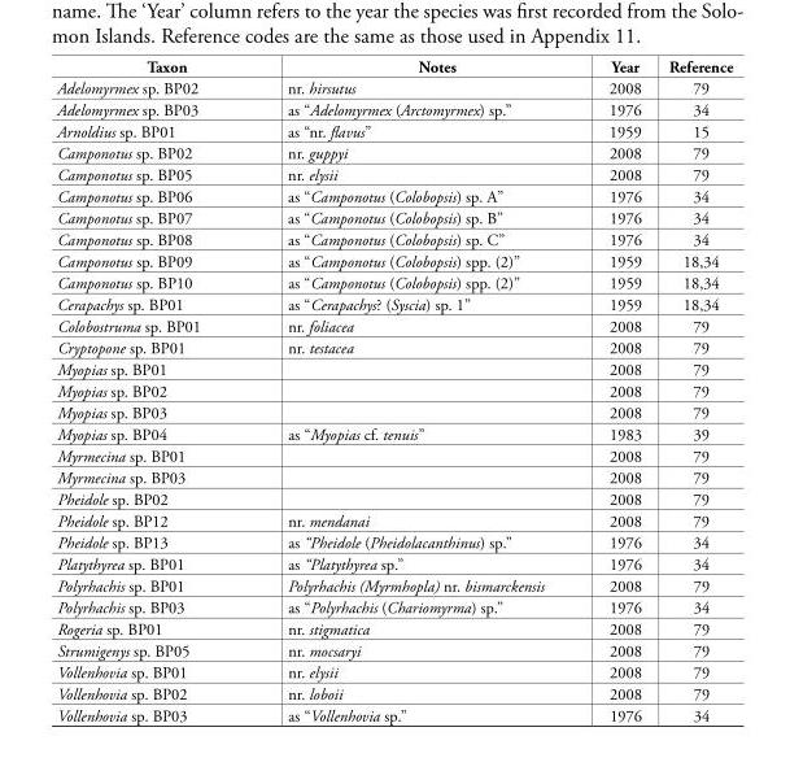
<table><tbody><tr><td>Taxon</td><td>Notes</td><td>Year</td><td>Reference</td></tr><tr><td>Adelomyrmex sp. BP02</td><td>nr. hirsutus</td><td>2008</td><td>79</td></tr><tr><td>Adelomyrmex sp. BP03</td><td>as “Adelomyrmex (Arctomyrmex) sp.”</td><td>1976</td><td>34</td></tr><tr><td>Arnoldius sp. BP01</td><td>as “nr. flavus”</td><td>1959</td><td>15</td></tr><tr><td>Camponotus sp. BP02</td><td>nr. guppyi</td><td>2008</td><td>79</td></tr><tr><td>Camponotus sp. BP05</td><td>nr. elysii</td><td>2008</td><td>79</td></tr><tr><td>Camponotus sp. BP06</td><td>as “Camponotus (Colobopsis) sp. A”</td><td>1976</td><td>34</td></tr><tr><td>Camponotus sp. BP07</td><td>as “Camponotus (Colobopsis) sp. B”</td><td>1976</td><td>34</td></tr><tr><td>Camponotus sp. BP08</td><td>as “Camponotus (Colobopsis) sp. C”</td><td>1976</td><td>34</td></tr><tr><td>Camponotus sp. BP09</td><td>as “Camponotus (Colobopsis) spp. (2)”</td><td>1959</td><td>18,34</td></tr><tr><td>Camponotus sp. BP10</td><td>as “Camponotus (Colobopsis) spp. (2)”</td><td>1959</td><td>18,34</td></tr><tr><td>Cerapachys sp. BP01</td><td>as “Cerapachys? (Syscia) sp. 1”</td><td>1959</td><td>18,34</td></tr><tr><td>Colobostruma sp. BP01</td><td>nr. foliacea</td><td>2008</td><td>79</td></tr><tr><td>Cryptopone sp. BP01</td><td>nr. testacea</td><td>2008</td><td>79</td></tr><tr><td>Myopias sp. BP01</td><td></td><td>2008</td><td>79</td></tr><tr><td>Myopias sp. BP02</td><td></td><td>2008</td><td>79</td></tr><tr><td>Myopias sp. BP03</td><td></td><td>2008</td><td>79</td></tr><tr><td>Myopias sp. BP04</td><td>as “Myopias cf. tenuis”</td><td>1983</td><td>39</td></tr><tr><td>Myrmecina sp. BP01</td><td></td><td>2008</td><td>79</td></tr><tr><td>Myrmecina sp. BP03</td><td></td><td>2008</td><td>79</td></tr><tr><td>Pheidole sp. BP02</td><td></td><td>2008</td><td>79</td></tr><tr><td>Pheidole sp. BP12</td><td>nr. mendanai</td><td>2008</td><td>79</td></tr><tr><td>Pheidole sp. BP13</td><td>as “Pheidole (Pheidolacanthinus) sp.”</td><td>1976</td><td>34</td></tr><tr><td>Platythyrea sp. BP01</td><td>as “Platythyrea sp.”</td><td>1976</td><td>34</td></tr><tr><td>Polyrhachis sp. BP01</td><td>Polyrhachis (Myrmhopla) nr. bismarckensis</td><td>2008</td><td>79</td></tr><tr><td>Polyrhachis sp. BP03</td><td>as “Polyrhachis (Chariomyrma) sp.”</td><td>1976</td><td>34</td></tr><tr><td>Rogeria sp. BP01</td><td>nr. stigmatica</td><td>2008</td><td>79</td></tr><tr><td>Strumigenys sp. BP05</td><td>nr. mocsaryi</td><td>2008</td><td>79</td></tr><tr><td>Vollenhovia sp. BP01</td><td>nr. elysii</td><td>2008</td><td>79</td></tr><tr><td>Vollenhovia sp. BP02</td><td>nr. loboii</td><td>2008</td><td>79</td></tr><tr><td>Vollenhovia sp. BP03</td><td>as “Vollenhovia sp.”</td><td>1976</td><td>34</td></tr></tbody></table>